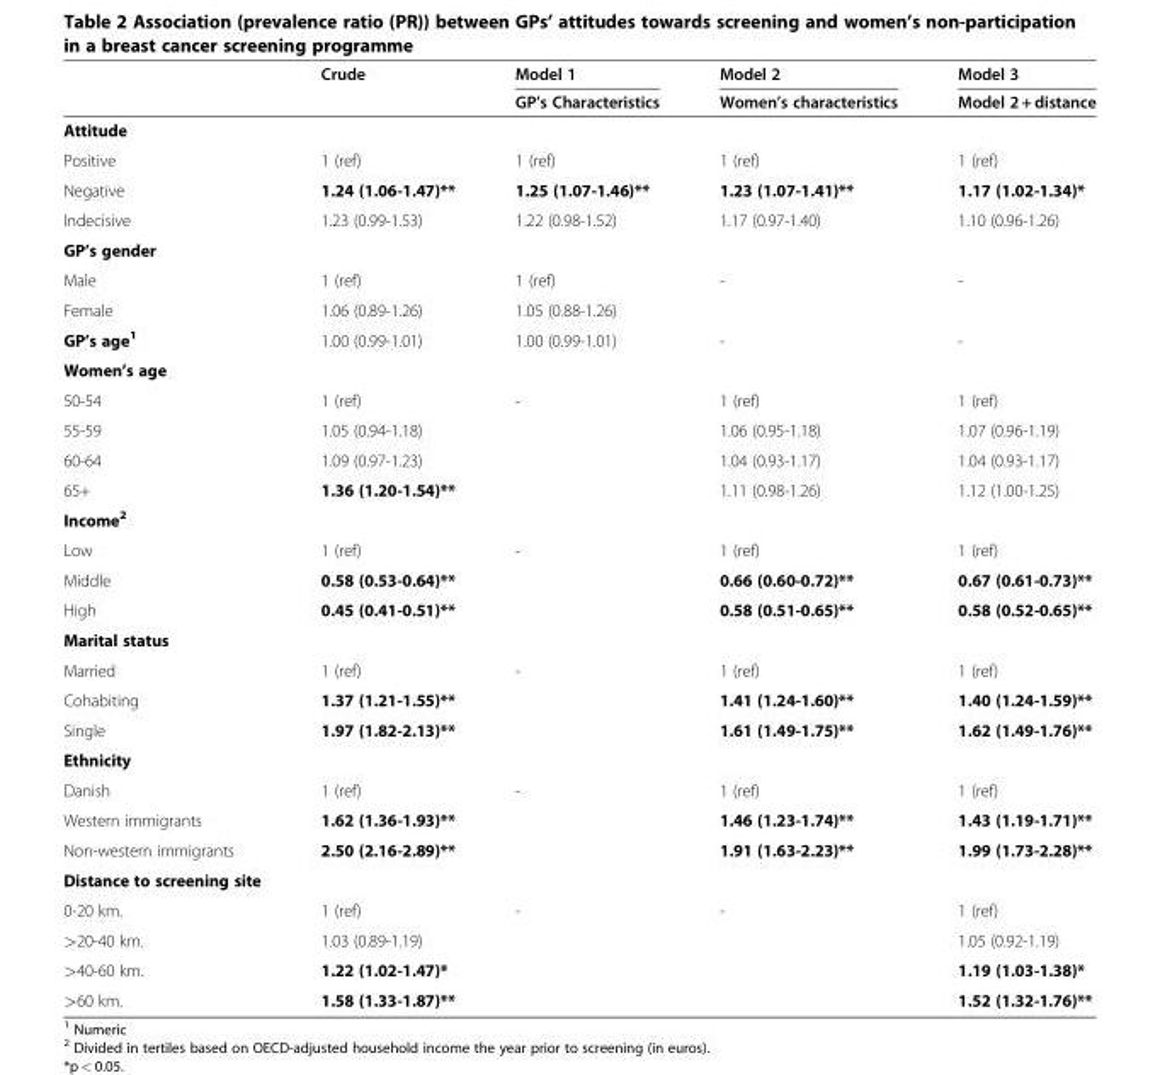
<table><thead><tr><td rowspan="2"></td><td rowspan="2">Crude</td><td rowspan="2">Model 1 GP’s Characteristics</td><td rowspan="2">Model 2 Women’s characteristics</td><td rowspan="2">Model 3 Model 2 + distance</td></tr><tr></tr></thead><tbody><tr><td colspan="5">Attitude</td></tr><tr><td>Positive</td><td>1 (ref)</td><td>1 (ref)</td><td>1 (ref)</td><td>1 (ref)</td></tr><tr><td>Negative</td><td>1.24 (1.06-1.47)**</td><td>1.25 (1.07-1.46)**</td><td>1.23 (1.07-1.41)**</td><td>1.17 (1.02-1.34)*</td></tr><tr><td>Indecisive</td><td>1.23 (0.99-1.53)</td><td>1.22 (0.98-1.52)</td><td>1.17 (0.97-1.40)</td><td>1.10 (0.96-1.26)</td></tr><tr><td colspan="5">GP’s gender</td></tr><tr><td>Male</td><td>1 (ref)</td><td>1 (ref)</td><td>-</td><td>-</td></tr><tr><td>Female</td><td>1.06 (0.89-1.26)</td><td>1.05 (0.88-1.26)</td><td></td><td></td></tr><tr><td>GP’s age<sup>1</sup></td><td>1.00 (0.99-1.01)</td><td>1.00 (0.99-1.01)</td><td>-</td><td>-</td></tr><tr><td colspan="5">Women’s age</td></tr><tr><td>50-54</td><td>1 (ref)</td><td>-</td><td>1 (ref)</td><td>1 (ref)</td></tr><tr><td>55-59</td><td>1.05 (0.94-1.18)</td><td></td><td>1.06 (0.95-1.18)</td><td>1.07 (0.96-1.19)</td></tr><tr><td>60-64</td><td>1.09 (0.97-1.23)</td><td></td><td>1.04 (0.93-1.17)</td><td>1.04 (0.93-1.17)</td></tr><tr><td>65+</td><td>1.36 (1.20-1.54)**</td><td></td><td>1.11 (0.98-1.26)</td><td>1.12 (1.00-1.25)</td></tr><tr><td colspan="5">Income<sup>2</sup></td></tr><tr><td>Low</td><td>1 (ref)</td><td>-</td><td>1 (ref)</td><td>1 (ref)</td></tr><tr><td>Middle</td><td>0.58 (0.53-0.64)**</td><td></td><td>0.66 (0.60-0.72)**</td><td>0.67 (0.61-0.73)**</td></tr><tr><td>High</td><td>0.45 (0.41-0.51)**</td><td></td><td>0.58 (0.51-0.65)**</td><td>0.58 (0.52-0.65)**</td></tr><tr><td colspan="5">Marital status</td></tr><tr><td>Married</td><td>1 (ref)</td><td>-</td><td>1 (ref)</td><td>1 (ref)</td></tr><tr><td>Cohabiting</td><td>1.37 (1.21-1.55)**</td><td></td><td>1.41 (1.24-1.60)**</td><td>1.40 (1.24-1.59)**</td></tr><tr><td>Single</td><td>1.97 (1.82-2.13)**</td><td></td><td>1.61 (1.49-1.75)**</td><td>1.62 (1.49-1.76)**</td></tr><tr><td colspan="5">Ethnicity</td></tr><tr><td>Danish</td><td>1 (ref)</td><td>-</td><td>1 (ref)</td><td>1 (ref)</td></tr><tr><td>Western immigrants</td><td>1.62 (1.36-1.93)**</td><td></td><td>1.46 (1.23-1.74)**</td><td>1.43 (1.19-1.71)**</td></tr><tr><td>Non-western immigrants</td><td>2.50 (2.16-2.89)**</td><td></td><td>1.91 (1.63-2.23)**</td><td>1.99 (1.73-2.28)**</td></tr><tr><td colspan="5">Distance to screening site</td></tr><tr><td>0-20 km.</td><td>1 (ref)</td><td>-</td><td>-</td><td>1 (ref)</td></tr><tr><td>&gt;20-40 km.</td><td>1.03 (0.89-1.19)</td><td></td><td></td><td>1.05 (0.92-1.19)</td></tr><tr><td>&gt;40-60 km.</td><td>1.22 (1.02-1.47)*</td><td></td><td></td><td>1.19 (1.03-1.38)*</td></tr><tr><td>&gt;60 km.</td><td>1.58 (1.33-1.87)**</td><td></td><td></td><td>1.52 (1.32-1.76)**</td></tr></tbody></table>